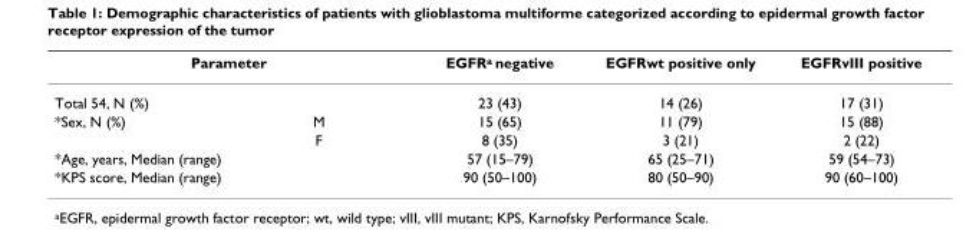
<table><thead><tr><td colspan="2">Parameter</td><td rowspan="2">EGFR<sup>a</sup> negative 23 (43)</td><td rowspan="2">EGFRwt positive only 14 (26)</td><td rowspan="2">EGFRvIII positive 17 (31)</td></tr><tr><td>Total 54, N (%)</td><td></td></tr></thead><tbody><tr><td rowspan="2">*Sex, N (%)</td><td>M</td><td>15 (65)</td><td>11 (79)</td><td>15 (88)</td></tr><tr><td>F</td><td>8 (35)</td><td>3 (21)</td><td>2 (22)</td></tr><tr><td>*Age, years, Median (range)</td><td></td><td>57 (15–79)</td><td>65 (25–71)</td><td>59 (54–73)</td></tr><tr><td>*KPS score, Median (range)</td><td></td><td>90 (50–100)</td><td>80 (50–90)</td><td>90 (60–100)</td></tr></tbody></table>